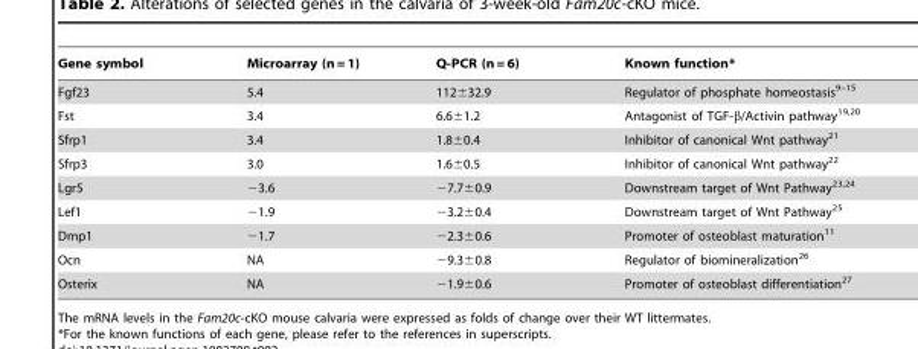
<table><thead><tr><td>Gene symbol</td><td>Microarray (n = 1)</td><td>Q-PCR (n = 6)</td><td>Known function*</td></tr></thead><tbody><tr><td>Fgf23</td><td>5.4</td><td>112±32.9</td><td>Regulator of phosphate homeostasis<sup>9–15</sup></td></tr><tr><td>Fst</td><td>3.4</td><td>6.6±1.2</td><td>Antagonist of TGF-β/Activin pathway<sup>19,20</sup></td></tr><tr><td>Sfrp1</td><td>3.4</td><td>1.8±0.4</td><td>Inhibitor of canonical Wnt pathway<sup>21</sup></td></tr><tr><td>Sfrp3</td><td>3.0</td><td>1.6±0.5</td><td>Inhibitor of canonical Wnt pathway<sup>22</sup></td></tr><tr><td>Lgr5</td><td>−3.6</td><td>−7.7±0.9</td><td>Downstream target of Wnt Pathway<sup>23,24</sup></td></tr><tr><td>Lef1</td><td>−1.9</td><td>−3.2±0.4</td><td>Downstream target of Wnt Pathway<sup>25</sup></td></tr><tr><td>Dmp1</td><td>−1.7</td><td>−2.3±0.6</td><td>Promoter of osteoblast maturation<sup>11</sup></td></tr><tr><td>Ocn</td><td>NA</td><td>−9.3±0.8</td><td>Regulator of biomineralization<sup>26</sup></td></tr><tr><td>Osterix</td><td>NA</td><td>−1.9±0.6</td><td>Promoter of osteoblast differentiation<sup>27</sup></td></tr></tbody></table>